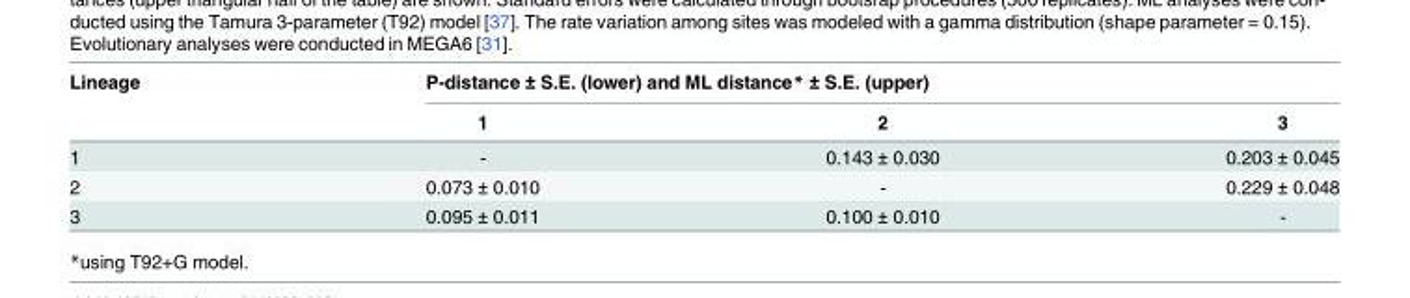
<table><thead><tr><td rowspan="2">Lineage</td><td colspan="3">P-distance ± S.E. (lower) and ML distance* ± S.E. (upper)</td></tr><tr><td>1</td><td>2</td><td>3</td></tr></thead><tbody><tr><td>1</td><td>-</td><td>0.143 ± 0.030</td><td>0.203 ± 0.045</td></tr><tr><td>2</td><td>0.073 ± 0.010</td><td>-</td><td>0.229 ± 0.048</td></tr><tr><td>3</td><td>0.095 ± 0.011</td><td>0.100 ± 0.010</td><td>-</td></tr></tbody></table>